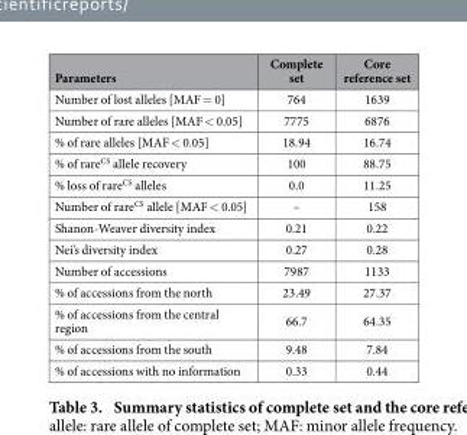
<table><thead><tr><td>Parameters</td><td>Complete set</td><td>Core reference set</td></tr></thead><tbody><tr><td>Number of lost alleles [MAF = 0]</td><td>764</td><td>1639</td></tr><tr><td>Number of rare alleles [MAF &lt; 0.05]</td><td>7775</td><td>6876</td></tr><tr><td>% of rare alleles [MAF &lt; 0.05]</td><td>18.94</td><td>16.74</td></tr><tr><td>% of rare<sup>CS</sup> allele recovery</td><td>100</td><td>88.75</td></tr><tr><td>% loss of rare<sup>CS</sup> alleles</td><td>0.0</td><td>11.25</td></tr><tr><td>Number of rare<sup>CS</sup> allele [MAF &lt; 0.05]</td><td>–</td><td>158</td></tr><tr><td>Shanon-Weaver diversity index</td><td>0.21</td><td>0.22</td></tr><tr><td>Nei’s diversity index</td><td>0.27</td><td>0.28</td></tr><tr><td>Number of accessions</td><td>7987</td><td>1133</td></tr><tr><td>% of accessions from the north</td><td>23.49</td><td>27.37</td></tr><tr><td>% of accessions from the central region</td><td>66.7</td><td>64.35</td></tr><tr><td>% of accessions from the south</td><td>9.48</td><td>7.84</td></tr><tr><td>% of accessions with no information</td><td>0.33</td><td>0.44</td></tr></tbody></table>